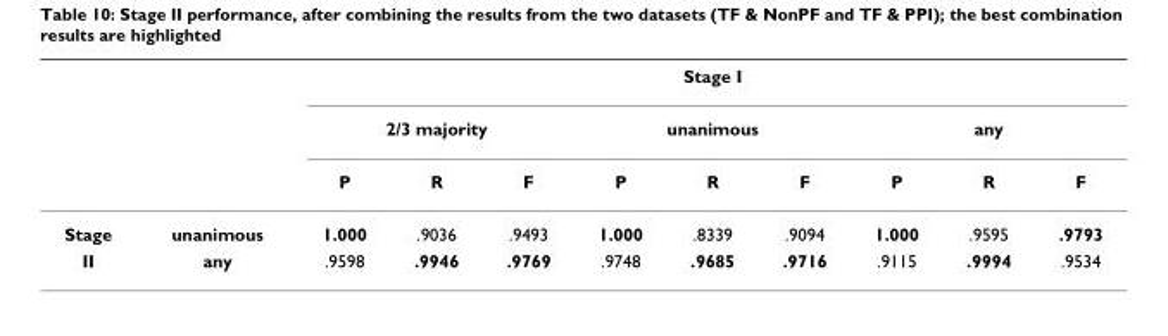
<table><thead><tr><td rowspan="3"></td><td rowspan="3"></td><td colspan="9">Stage I</td></tr><tr><td colspan="3">2/3 majority</td><td colspan="3">unanimous</td><td colspan="3">any</td></tr><tr><td>P</td><td>R</td><td>F</td><td>P</td><td>R</td><td>F</td><td>P</td><td>R</td><td>F</td></tr></thead><tbody><tr><td>Stage</td><td>unanimous</td><td>1.000</td><td>.9036</td><td>.9493</td><td>1.000</td><td>.8339</td><td>.9094</td><td>1.000</td><td>.9595</td><td>.9793</td></tr><tr><td>II</td><td>any</td><td>.9598</td><td>.9946</td><td>.9769</td><td>.9748</td><td>.9685</td><td>.9716</td><td>.9115</td><td>.9994</td><td>.9534</td></tr></tbody></table>